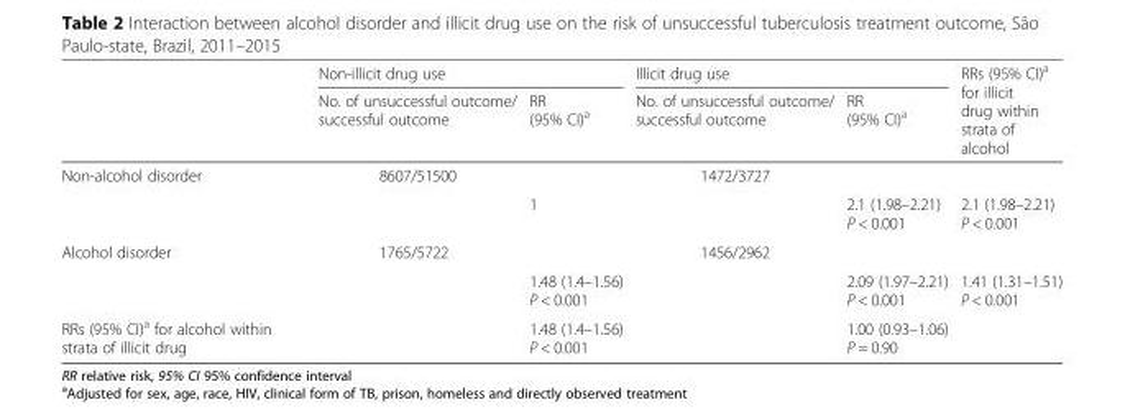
<table><thead><tr><td rowspan="2"></td><td colspan="2">Non-illicit drug use</td><td colspan="2">Illicit drug use</td><td rowspan="2">RRs (95% CI)<sup>a</sup> for illicit drug within strata of alcohol</td></tr><tr><td>No. of unsuccessful outcome/ successful outcome</td><td>RR (95% CI)<sup>a</sup></td><td>No. of unsuccessful outcome/ successful outcome</td><td>RR (95% CI)<sup>a</sup></td></tr></thead><tbody><tr><td rowspan="2">Non-alcohol disorder</td><td>8607/51500</td><td></td><td>1472/3727</td><td></td><td></td></tr><tr><td></td><td>1</td><td></td><td>2.1 (1.98–2.21) P &lt; 0.001</td><td>2.1 (1.98–2.21) P &lt; 0.001</td></tr><tr><td rowspan="2">Alcohol disorder</td><td>1765/5722</td><td></td><td>1456/2962</td><td></td><td></td></tr><tr><td></td><td>1.48 (1.4–1.56) P &lt; 0.001</td><td></td><td>2.09 (1.97–2.21) P &lt; 0.001</td><td>1.41 (1.31–1.51) P &lt; 0.001</td></tr><tr><td>RRs (95% CI)<sup>a</sup> for alcohol within strata of illicit drug</td><td></td><td>1.48 (1.4–1.56) P &lt; 0.001</td><td></td><td>1.00 (0.93–1.06) P = 0.90</td><td></td></tr></tbody></table>